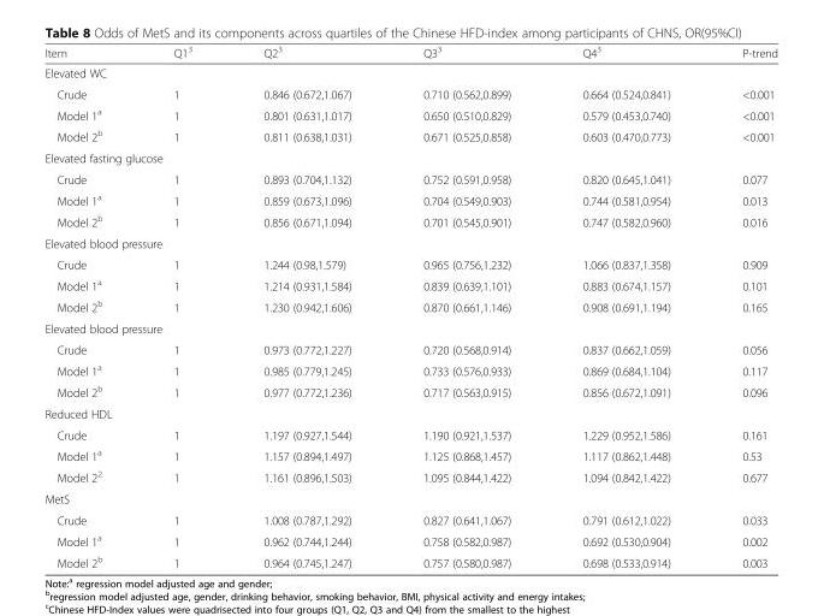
<table><thead><tr><td>Item</td><td>Q1<sup>3</sup></td><td>Q2<sup>3</sup></td><td>Q3<sup>3</sup></td><td>Q4<sup>3</sup></td><td>P-trend</td></tr></thead><tbody><tr><td colspan="6">Elevated WC</td></tr><tr><td>Crude</td><td>1</td><td>0.846 (0.672,1.067)</td><td>0.710 (0.562,0.899)</td><td>0.664 (0.524,0.841)</td><td>&lt;0.001</td></tr><tr><td>Model 1<sup>a</sup></td><td>1</td><td>0.801 (0.631,1.017)</td><td>0.650 (0.510,0.829)</td><td>0.579 (0.453,0.740)</td><td>&lt;0.001</td></tr><tr><td>Model 2<sup>b</sup></td><td>1</td><td>0.811 (0.638,1.031)</td><td>0.671 (0.525,0.858)</td><td>0.603 (0.470,0.773)</td><td>&lt;0.001</td></tr><tr><td colspan="6">Elevated fasting glucose</td></tr><tr><td>Crude</td><td>1</td><td>0.893 (0.704,1.132)</td><td>0.752 (0.591,0.958)</td><td>0.820 (0.645,1.041)</td><td>0.077</td></tr><tr><td>Model 1<sup>a</sup></td><td>1</td><td>0.859 (0.673,1.096)</td><td>0.704 (0.549,0.903)</td><td>0.744 (0.581,0.954)</td><td>0.013</td></tr><tr><td>Model 2<sup>b</sup></td><td>1</td><td>0.856 (0.671,1.094)</td><td>0.701 (0.545,0.901)</td><td>0.747 (0.582,0.960)</td><td>0.016</td></tr><tr><td colspan="6">Elevated blood pressure</td></tr><tr><td>Crude</td><td>1</td><td>1.244 (0.98,1.579)</td><td>0.965 (0.756,1.232)</td><td>1.066 (0.837,1.358)</td><td>0.909</td></tr><tr><td>Model 1<sup>a</sup></td><td>1</td><td>1.214 (0.931,1.584)</td><td>0.839 (0.639,1.101)</td><td>0.883 (0.674,1.157)</td><td>0.101</td></tr><tr><td>Model 2<sup>b</sup></td><td>1</td><td>1.230 (0.942,1.606)</td><td>0.870 (0.661,1.146)</td><td>0.908 (0.691,1.194)</td><td>0.165</td></tr><tr><td colspan="6">Elevated blood pressure</td></tr><tr><td>Crude</td><td>1</td><td>0.973 (0.772,1.227)</td><td>0.720 (0.568,0.914)</td><td>0.837 (0.662,1.059)</td><td>0.056</td></tr><tr><td>Model 1<sup>a</sup></td><td>1</td><td>0.985 (0.779,1.245)</td><td>0.733 (0.576,0.933)</td><td>0.869 (0.684,1.104)</td><td>0.117</td></tr><tr><td>Model 2<sup>b</sup></td><td>1</td><td>0.977 (0.772,1.236)</td><td>0.717 (0.563,0.915)</td><td>0.856 (0.672,1.091)</td><td>0.096</td></tr><tr><td colspan="6">Reduced HDL</td></tr><tr><td>Crude</td><td>1</td><td>1.197 (0.927,1.544)</td><td>1.190 (0.921,1.537)</td><td>1.229 (0.952,1.586)</td><td>0.161</td></tr><tr><td>Model 1<sup>a</sup></td><td>1</td><td>1.157 (0.894,1.497)</td><td>1.125 (0.868,1.457)</td><td>1.117 (0.862,1.448)</td><td>0.53</td></tr><tr><td>Model 2<sup>2</sup></td><td>1</td><td>1.161 (0.896,1.503)</td><td>1.095 (0.844,1.422)</td><td>1.094 (0.842,1.422)</td><td>0.677</td></tr><tr><td colspan="6">MetS</td></tr><tr><td>Crude</td><td>1</td><td>1.008 (0.787,1.292)</td><td>0.827 (0.641,1.067)</td><td>0.791 (0.612,1.022)</td><td>0.033</td></tr><tr><td>Model 1<sup>a</sup></td><td>1</td><td>0.962 (0.744,1.244)</td><td>0.758 (0.582,0.987)</td><td>0.692 (0.530,0.904)</td><td>0.002</td></tr><tr><td>Model 2<sup>b</sup></td><td>1</td><td>0.964 (0.745,1.247)</td><td>0.757 (0.580,0.987)</td><td>0.698 (0.533,0.914)</td><td>0.003</td></tr></tbody></table>